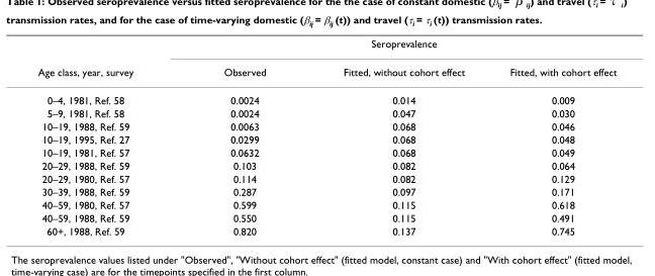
<table><thead><tr><td rowspan="2">Age class, year, survey</td><td colspan="3">Seroprevalence</td></tr><tr><td>Observed</td><td>Fitted, without cohort effect</td><td>Fitted, with cohort effect</td></tr></thead><tbody><tr><td>0–4, 1981, Ref. 58</td><td>0.0024</td><td>0.014</td><td>0.009</td></tr><tr><td>5–9, 1981, Ref. 58</td><td>0.0024</td><td>0.047</td><td>0.030</td></tr><tr><td>10–19, 1988, Ref. 59</td><td>0.0063</td><td>0.068</td><td>0.046</td></tr><tr><td>10–19, 1995, Ref. 27</td><td>0.0299</td><td>0.068</td><td>0.048</td></tr><tr><td>10–19, 1981, Ref. 57</td><td>0.0632</td><td>0.068</td><td>0.049</td></tr><tr><td>20–29, 1988, Ref. 59</td><td>0.103</td><td>0.082</td><td>0.064</td></tr><tr><td>20–29, 1980, Ref. 57</td><td>0.114</td><td>0.082</td><td>0.129</td></tr><tr><td>30–39, 1988, Ref. 59</td><td>0.287</td><td>0.097</td><td>0.171</td></tr><tr><td>40–59, 1980, Ref. 57</td><td>0.599</td><td>0.115</td><td>0.618</td></tr><tr><td>40–59, 1988, Ref. 59</td><td>0.550</td><td>0.115</td><td>0.491</td></tr><tr><td>60+, 1988, Ref. 59</td><td>0.820</td><td>0.137</td><td>0.745</td></tr></tbody></table>